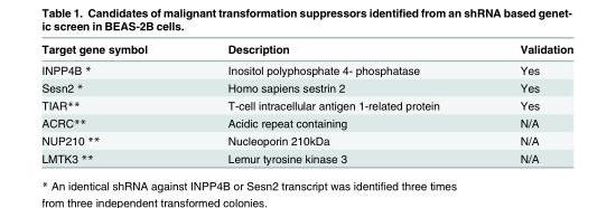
<table><thead><tr><td>Target gene symbol</td><td>Description</td><td>Validation</td></tr></thead><tbody><tr><td>INPP4B *</td><td>Inositol polyphosphate 4- phosphatase</td><td>Yes</td></tr><tr><td>Sesn2 *</td><td>Homo sapiens sestrin 2</td><td>Yes</td></tr><tr><td>TIAR**</td><td>T-cell intracellular antigen 1-related protein</td><td>Yes</td></tr><tr><td>ACRC**</td><td>Acidic repeat containing</td><td>N/A</td></tr><tr><td>NUP210 **</td><td>Nucleoporin 210kDa</td><td>N/A</td></tr><tr><td>LMTK3 **</td><td>Lemur tyrosine kinase 3</td><td>N/A</td></tr></tbody></table>